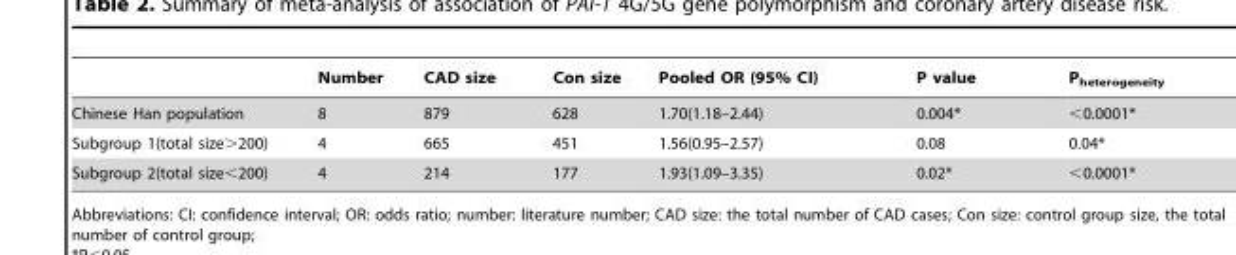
<table><thead><tr><td></td><td>Number</td><td>CAD size</td><td>Con size</td><td>Pooled OR (95% CI)</td><td>P value</td><td>P<sub>heterogeneity</sub></td></tr></thead><tbody><tr><td>Chinese Han population</td><td>8</td><td>879</td><td>628</td><td>1.70(1.18–2.44)</td><td>0.004*</td><td>&lt;0.0001*</td></tr><tr><td>Subgroup 1(total size&gt;200)</td><td>4</td><td>665</td><td>451</td><td>1.56(0.95–2.57)</td><td>0.08</td><td>0.04*</td></tr><tr><td>Subgroup 2(total size&lt;200)</td><td>4</td><td>214</td><td>177</td><td>1.93(1.09–3.35)</td><td>0.02*</td><td>&lt;0.0001*</td></tr></tbody></table>